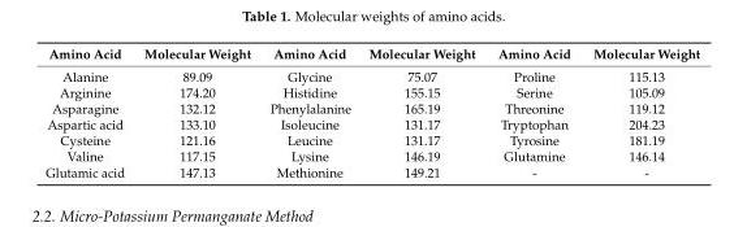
<table><thead><tr><td>Amino Acid</td><td>Molecular Weight</td><td>Amino Acid</td><td>Molecular Weight</td><td>Amino Acid</td><td>Molecular Weight</td></tr></thead><tbody><tr><td>Alanine</td><td>89.09</td><td>Glycine</td><td>75.07</td><td>Proline</td><td>115.13</td></tr><tr><td>Arginine</td><td>174.20</td><td>Histidine</td><td>155.15</td><td>Serine</td><td>105.09</td></tr><tr><td>Asparagine</td><td>132.12</td><td>Phenylalanine</td><td>165.19</td><td>Threonine</td><td>119.12</td></tr><tr><td>Aspartic acid</td><td>133.10</td><td>Isoleucine</td><td>131.17</td><td>Tryptophan</td><td>204.23</td></tr><tr><td>Cysteine</td><td>121.16</td><td>Leucine</td><td>131.17</td><td>Tyrosine</td><td>181.19</td></tr><tr><td>Valine</td><td>117.15</td><td>Lysine</td><td>146.19</td><td>Glutamine</td><td>146.14</td></tr><tr><td>Glutamic acid</td><td>147.13</td><td>Methionine</td><td>149.21</td><td>-</td><td>-</td></tr></tbody></table>